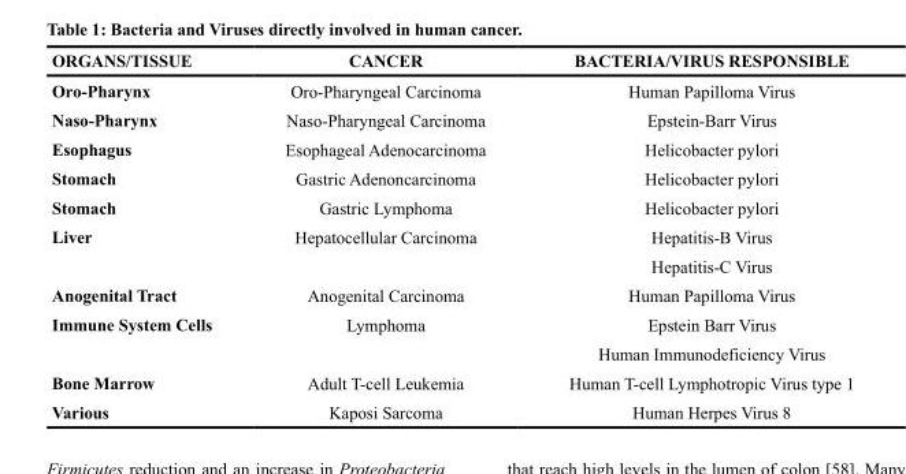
<table><thead><tr><td>ORGANS/TISSUE</td><td>CANCER</td><td>BACTERIA/VIRUS RESPONSIBLE</td></tr></thead><tbody><tr><td>Oro-Pharynx</td><td>Oro-Pharyngeal Carcinoma</td><td>Human Papilloma Virus</td></tr><tr><td>Naso-Pharynx</td><td>Naso-Pharyngeal Carcinoma</td><td>Epstein-Barr Virus</td></tr><tr><td>Esophagus</td><td>Esophageal Adenocarcinoma</td><td>Helicobacter pylori</td></tr><tr><td>Stomach</td><td>Gastric Adenoncarcinoma</td><td>Helicobacter pylori</td></tr><tr><td>Stomach</td><td>Gastric Lymphoma</td><td>Helicobacter pylori</td></tr><tr><td rowspan="2">Liver</td><td rowspan="2">Hepatocellular Carcinoma</td><td>Hepatitis-B Virus</td></tr><tr><td>Hepatitis-C Virus</td></tr><tr><td>Anogenital Tract</td><td>Anogenital Carcinoma</td><td>Human Papilloma Virus</td></tr><tr><td rowspan="2">Immune System Cells</td><td rowspan="2">Lymphoma</td><td>Epstein Barr Virus</td></tr><tr><td>Human Immunodeficiency Virus</td></tr><tr><td>Bone Marrow</td><td>Adult T-cell Leukemia</td><td>Human T-cell Lymphotropic Virus type 1</td></tr><tr><td>Various</td><td>Kaposi Sarcoma</td><td>Human Herpes Virus 8</td></tr></tbody></table>